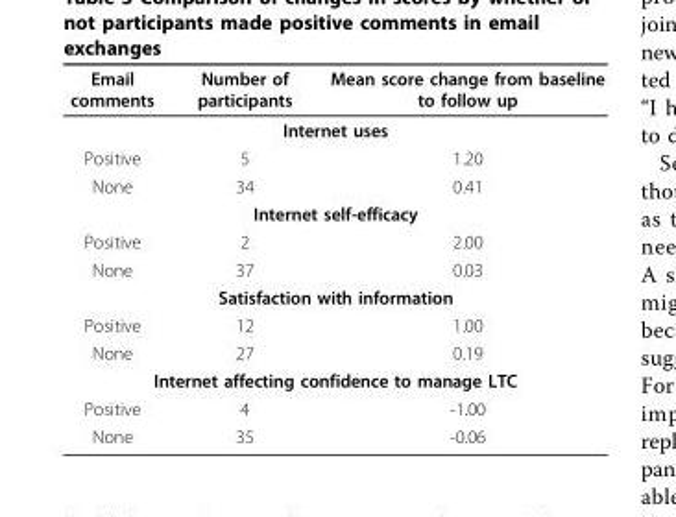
<table><thead><tr><td>Email comments</td><td>Number of participants</td><td>Mean score change from baseline to follow up</td></tr></thead><tbody><tr><td colspan="3">Internet uses</td></tr><tr><td>Positive</td><td>5</td><td>1.20</td></tr><tr><td>None</td><td>34</td><td>0.41</td></tr><tr><td colspan="3">Internet self-efficacy</td></tr><tr><td>Positive</td><td>2</td><td>2.00</td></tr><tr><td>None</td><td>37</td><td>0.03</td></tr><tr><td colspan="3">Satisfaction with information</td></tr><tr><td>Positive</td><td>12</td><td>1.00</td></tr><tr><td>None</td><td>27</td><td>0.19</td></tr><tr><td colspan="3">Internet affecting confidence to manage LTC</td></tr><tr><td>Positive</td><td>4</td><td>-1.00</td></tr><tr><td>None</td><td>35</td><td>-0.06</td></tr></tbody></table>